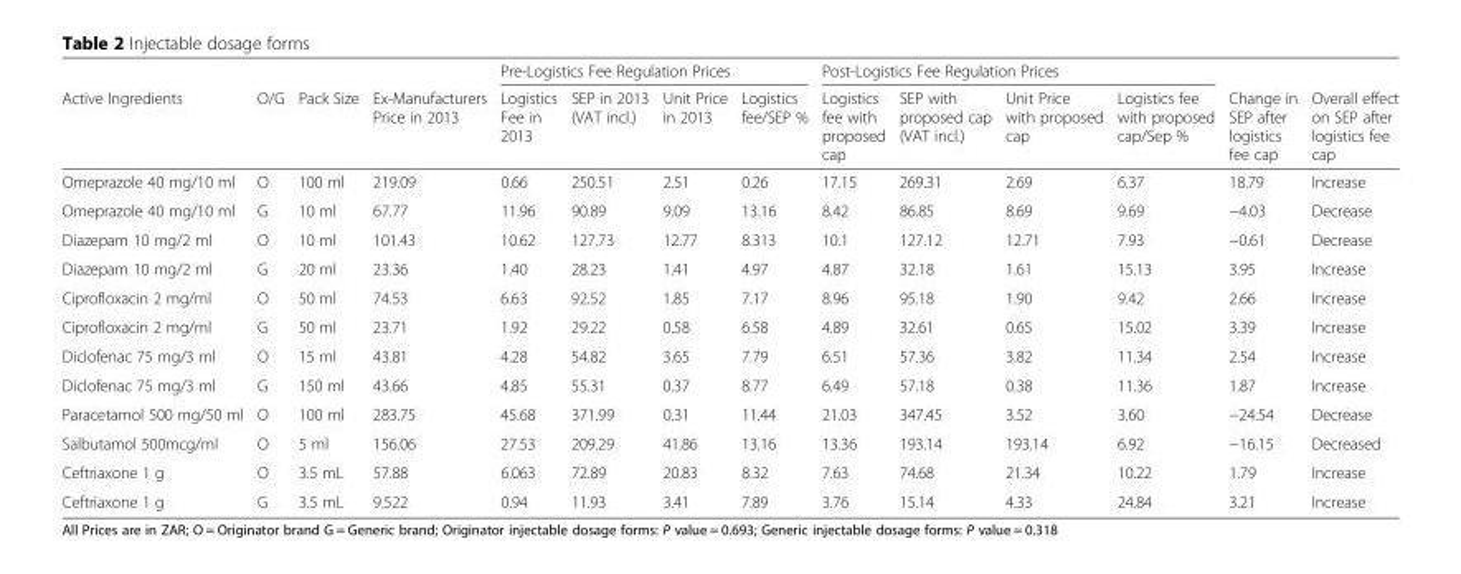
<table><thead><tr><td rowspan="2">Active Ingredients</td><td rowspan="2">O/G</td><td rowspan="2">Pack Size</td><td rowspan="2">Ex-Manufacturers Price in 2013</td><td colspan="4">Pre-Logistics Fee Regulation Prices</td><td colspan="4">Post-Logistics Fee Regulation Prices</td><td rowspan="2">Change in SEP after logistics fee cap</td><td rowspan="2">Overall effect on SEP after logistics fee cap</td></tr><tr><td>Logistics Fee in 2013</td><td>SEP in 2013 (VAT incl.)</td><td>Unit Price in 2013</td><td>Logistics fee/SEP %</td><td>Logistics fee with proposed cap</td><td>SEP with proposed cap (VAT incl.)</td><td>Unit Price with proposed cap</td><td>Logistics fee with proposed cap/Sep %</td></tr></thead><tbody><tr><td>Omeprazole 40 mg/10 ml</td><td>O</td><td>100 ml</td><td>219.09</td><td>0.66</td><td>250.51</td><td>2.51</td><td>0.26</td><td>17.15</td><td>269.31</td><td>2.69</td><td>6.37</td><td>18.79</td><td>Increase</td></tr><tr><td>Omeprazole 40 mg/10 ml</td><td>G</td><td>10 ml</td><td>67.77</td><td>11.96</td><td>90.89</td><td>9.09</td><td>13.16</td><td>8.42</td><td>86.85</td><td>8.69</td><td>9.69</td><td>−4.03</td><td>Decrease</td></tr><tr><td>Diazepam 10 mg/2 ml</td><td>O</td><td>10 ml</td><td>101.43</td><td>10.62</td><td>127.73</td><td>12.77</td><td>8.313</td><td>10.1</td><td>127.12</td><td>12.71</td><td>7.93</td><td>−0.61</td><td>Decrease</td></tr><tr><td>Diazepam 10 mg/2 ml</td><td>G</td><td>20 ml</td><td>23.36</td><td>1.40</td><td>28.23</td><td>1.41</td><td>4.97</td><td>4.87</td><td>32.18</td><td>1.61</td><td>15.13</td><td>3.95</td><td>Increase</td></tr><tr><td>Ciprofloxacin 2 mg/ml</td><td>O</td><td>50 ml</td><td>74.53</td><td>6.63</td><td>92.52</td><td>1.85</td><td>7.17</td><td>8.96</td><td>95.18</td><td>1.90</td><td>9.42</td><td>2.66</td><td>Increase</td></tr><tr><td>Ciprofloxacin 2 mg/ml</td><td>G</td><td>50 ml</td><td>23.71</td><td>1.92</td><td>29.22</td><td>0.58</td><td>6.58</td><td>4.89</td><td>32.61</td><td>0.65</td><td>15.02</td><td>3.39</td><td>Increase</td></tr><tr><td>Diclofenac 75 mg/3 ml</td><td>O</td><td>15 ml</td><td>43.81</td><td>4.28</td><td>54.82</td><td>3.65</td><td>7.79</td><td>6.51</td><td>57.36</td><td>3.82</td><td>11.34</td><td>2.54</td><td>Increase</td></tr><tr><td>Diclofenac 75 mg/3 ml</td><td>G</td><td>150 ml</td><td>43.66</td><td>4.85</td><td>55.31</td><td>0.37</td><td>8.77</td><td>6.49</td><td>57.18</td><td>0.38</td><td>11.36</td><td>1.87</td><td>Increase</td></tr><tr><td>Paracetamol 500 mg/50 ml</td><td>O</td><td>100 ml</td><td>283.75</td><td>45.68</td><td>371.99</td><td>0.31</td><td>11.44</td><td>21.03</td><td>347.45</td><td>3.52</td><td>3.60</td><td>−24.54</td><td>Decrease</td></tr><tr><td>Salbutamol 500mcg/ml</td><td>O</td><td>5 ml</td><td>156.06</td><td>27.53</td><td>209.29</td><td>41.86</td><td>13.16</td><td>13.36</td><td>193.14</td><td>193.14</td><td>6.92</td><td>−16.15</td><td>Decreased</td></tr><tr><td>Ceftriaxone 1 g</td><td>O</td><td>3.5 mL</td><td>57.88</td><td>6.063</td><td>72.89</td><td>20.83</td><td>8.32</td><td>7.63</td><td>74.68</td><td>21.34</td><td>10.22</td><td>1.79</td><td>Increase</td></tr><tr><td>Ceftriaxone 1 g</td><td>G</td><td>3.5 mL</td><td>9.522</td><td>0.94</td><td>11.93</td><td>3.41</td><td>7.89</td><td>3.76</td><td>15.14</td><td>4.33</td><td>24.84</td><td>3.21</td><td>Increase</td></tr></tbody></table>